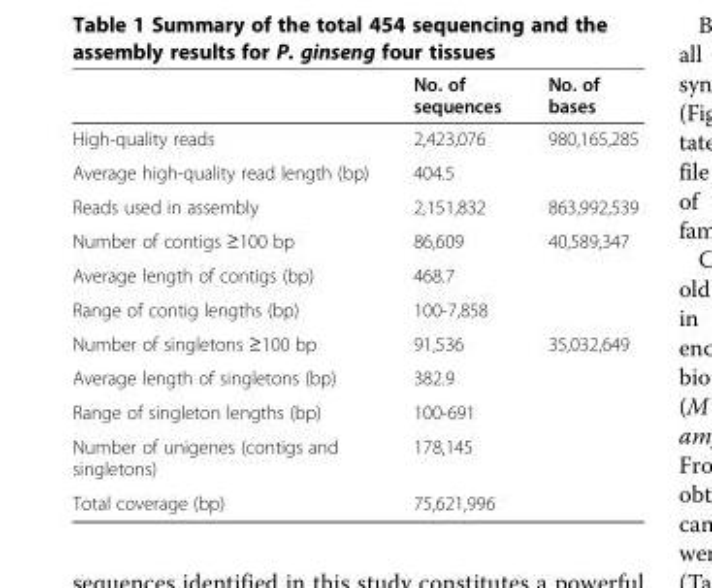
<table><thead><tr><td></td><td>No. of sequences</td><td>No. of bases</td></tr></thead><tbody><tr><td>High-quality reads</td><td>2,423,076</td><td>980,165,285</td></tr><tr><td>Average high-quality read length (bp)</td><td>404.5</td><td></td></tr><tr><td>Reads used in assembly</td><td>2,151,832</td><td>863,992,539</td></tr><tr><td>Number of contigs ≥100 bp</td><td>86,609</td><td>40,589,347</td></tr><tr><td>Average length of contigs (bp)</td><td>468.7</td><td></td></tr><tr><td>Range of contig lengths (bp)</td><td>100-7,858</td><td></td></tr><tr><td>Number of singletons ≥100 bp</td><td>91,536</td><td>35,032,649</td></tr><tr><td>Average length of singletons (bp)</td><td>382.9</td><td></td></tr><tr><td>Range of singleton lengths (bp)</td><td>100-691</td><td></td></tr><tr><td>Number of unigenes (contigs and singletons)</td><td>178,145</td><td></td></tr><tr><td>Total coverage (bp)</td><td colspan="2">75,621,996</td></tr></tbody></table>